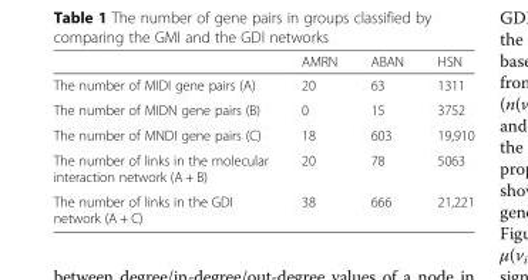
<table><thead><tr><td></td><td>AMRN</td><td>ABAN</td><td>HSN</td></tr></thead><tbody><tr><td>The number of MIDI gene pairs (A)</td><td>20</td><td>63</td><td>1311</td></tr><tr><td>The number of MIDN gene pairs (B)</td><td>0</td><td>15</td><td>3752</td></tr><tr><td>The number of MNDI gene pairs (C)</td><td>18</td><td>603</td><td>19,910</td></tr><tr><td>The number of links in the molecular interaction network (A + B)</td><td>20</td><td>78</td><td>5063</td></tr><tr><td>The number of links in the GDI network (A + C)</td><td>38</td><td>666</td><td>21,221</td></tr></tbody></table>